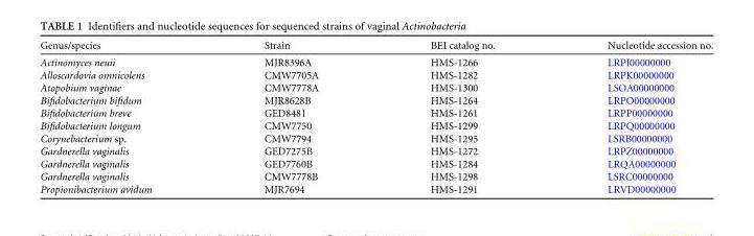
<table><thead><tr><td>Genus/species</td><td>Strain</td><td>BEI catalog no.</td><td>Nucleotide accession no.</td></tr></thead><tbody><tr><td>Actinomyces neuii</td><td>MJR8396A</td><td>HMS-1266</td><td>LRPJ00000000</td></tr><tr><td>Alloscardovia omnicolens</td><td>CMW7705A</td><td>HMS-1282</td><td>LRPK00000000</td></tr><tr><td>Atopobium vaginae</td><td>CMW7778A</td><td>HMS-1300</td><td>LSOA00000000</td></tr><tr><td>Bifidobacterium bifidum</td><td>MJR8628B</td><td>HMS-1264</td><td>LRPO00000000</td></tr><tr><td>Bifidobacterium breve</td><td>GED8481</td><td>HMS-1261</td><td>LRPP00000000</td></tr><tr><td>Bifidobacterium longum</td><td>CMW7750</td><td>HMS-1299</td><td>LRPQ00000000</td></tr><tr><td>Corynebacterium sp.</td><td>CMW7794</td><td>HMS-1295</td><td>LSRB00000000</td></tr><tr><td>Gardnerella vaginalis</td><td>GED7275B</td><td>HMS-1272</td><td>LRPZ00000000</td></tr><tr><td>Gardnerella vaginalis</td><td>GED7760B</td><td>HMS-1284</td><td>LRQA00000000</td></tr><tr><td>Gardnerella vaginalis</td><td>CMW7778B</td><td>HMS-1298</td><td>LSRC00000000</td></tr><tr><td>Propionibacterium avidum</td><td>MJR7694</td><td>HMS-1291</td><td>LRVD00000000</td></tr></tbody></table>